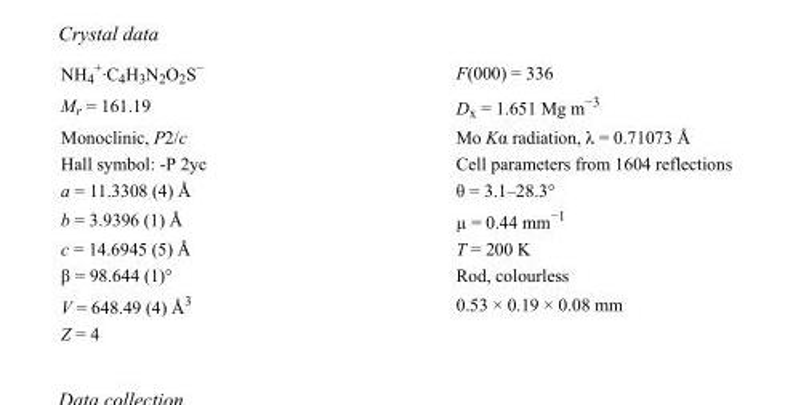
<table><tbody><tr><td>NH<sub>4</sub> <sup>+</sup>·C<sub>4</sub>H<sub>3</sub>N<sub>2</sub>O<sub>2</sub>S<sup>−</sup></td><td>F(000) = 336</td></tr><tr><td>M<sub>r</sub> = 161.19</td><td>D<sub>x</sub> = 1.651 Mg m<sup>−3</sup></td></tr><tr><td>Monoclinic, P2/c</td><td>Mo Kα radiation, λ = 0.71073 Å</td></tr><tr><td>Hall symbol: -P 2yc</td><td>Cell parameters from 1604 reflections</td></tr><tr><td>a = 11.3308 (4) Å</td><td>θ = 3.1–28.3°</td></tr><tr><td>b = 3.9396 (1) Å</td><td>µ = 0.44 mm<sup>−1</sup></td></tr><tr><td>c = 14.6945 (5) Å</td><td>T = 200 K</td></tr><tr><td>β = 98.644 (1)°</td><td>Rod, colourless</td></tr><tr><td>V = 648.49 (4) Å<sup>3</sup></td><td>0.53 × 0.19 × 0.08 mm</td></tr><tr><td>Z = 4</td><td></td></tr></tbody></table>